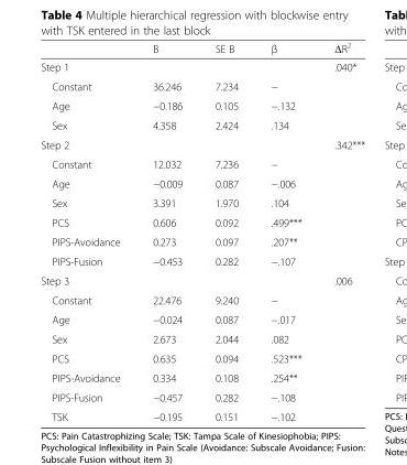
<table><thead><tr><td></td><td>B</td><td>SE B</td><td>β</td><td>ΔR<sup>2</sup></td></tr></thead><tbody><tr><td>Step 1</td><td></td><td></td><td></td><td>.040*</td></tr><tr><td>Constant</td><td>36.246</td><td>7.234</td><td>−</td><td></td></tr><tr><td>Age</td><td>−0.186</td><td>0.105</td><td>−.132</td><td></td></tr><tr><td>Sex</td><td>4.358</td><td>2.424</td><td>.134</td><td></td></tr><tr><td>Step 2</td><td></td><td></td><td></td><td>.342***</td></tr><tr><td>Constant</td><td>12.032</td><td>7.236</td><td>−</td><td></td></tr><tr><td>Age</td><td>−0.009</td><td>0.087</td><td>−.006</td><td></td></tr><tr><td>Sex</td><td>3.391</td><td>1.970</td><td>.104</td><td></td></tr><tr><td>PCS</td><td>0.606</td><td>0.092</td><td>.499***</td><td></td></tr><tr><td>PIPS-Avoidance</td><td>0.273</td><td>0.097</td><td>.207**</td><td></td></tr><tr><td>PIPS-Fusion</td><td>−0.453</td><td>0.282</td><td>−.107</td><td></td></tr><tr><td>Step 3</td><td></td><td></td><td></td><td>.006</td></tr><tr><td>Constant</td><td>22.476</td><td>9.240</td><td>−</td><td></td></tr><tr><td>Age</td><td>−0.024</td><td>0.087</td><td>−.017</td><td></td></tr><tr><td>Sex</td><td>2.673</td><td>2.044</td><td>.082</td><td></td></tr><tr><td>PCS</td><td>0.635</td><td>0.094</td><td>.523***</td><td></td></tr><tr><td>PIPS-Avoidance</td><td>0.334</td><td>0.108</td><td>.254**</td><td></td></tr><tr><td>PIPS-Fusion</td><td>−0.457</td><td>0.282</td><td>−.108</td><td></td></tr><tr><td>TSK</td><td>−0.195</td><td>0.151</td><td>−.102</td><td></td></tr></tbody></table>